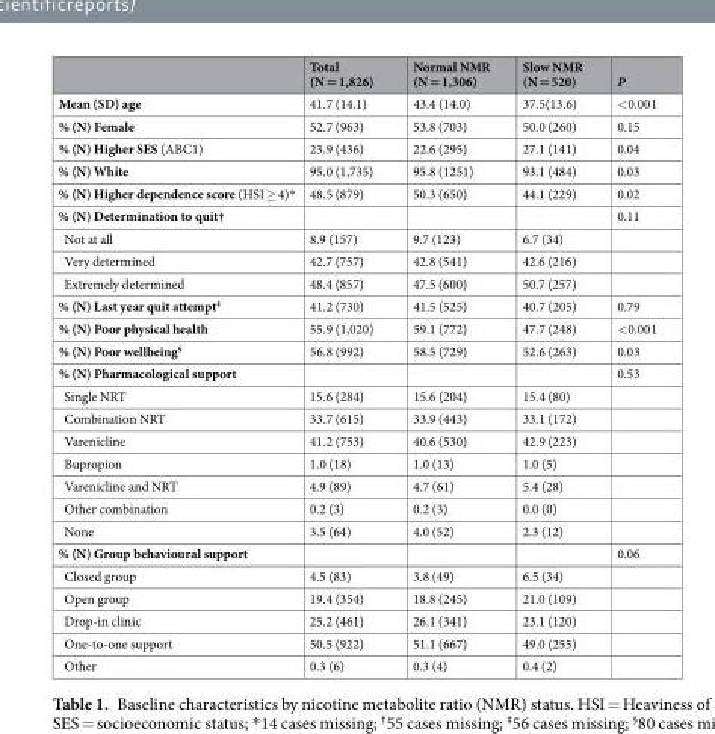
<table><thead><tr><td></td><td>Total (N = 1,826)</td><td>Normal NMR (N = 1,306)</td><td>Slow NMR (N = 520)</td><td>P</td></tr></thead><tbody><tr><td>Mean (SD) age</td><td>41.7 (14.1)</td><td>43.4 (14.0)</td><td>37.5(13.6)</td><td>&lt;0.001</td></tr><tr><td>% (N) Female</td><td>52.7 (963)</td><td>53.8 (703)</td><td>50.0 (260)</td><td>0.15</td></tr><tr><td>% (N) Higher SES (ABC1)</td><td>23.9 (436)</td><td>22.6 (295)</td><td>27.1 (141)</td><td>0.04</td></tr><tr><td>% (N) White</td><td>95.0 (1,735)</td><td>95.8 (1251)</td><td>93.1 (484)</td><td>0.03</td></tr><tr><td>% (N) Higher dependence score (HSI ≥ 4)*</td><td>48.5 (879)</td><td>50.3 (650)</td><td>44.1 (229)</td><td>0.02</td></tr><tr><td>% (N) Determination to quit†</td><td></td><td></td><td></td><td>0.11</td></tr><tr><td>Not at all</td><td>8.9 (157)</td><td>9.7 (123)</td><td>6.7 (34)</td><td></td></tr><tr><td>Very determined</td><td>42.7 (757)</td><td>42.8 (541)</td><td>42.6 (216)</td><td></td></tr><tr><td>Extremely determined</td><td>48.4 (857)</td><td>47.5 (600)</td><td>50.7 (257)</td><td></td></tr><tr><td>% (N) Last year quit attempt<sup>‡</sup></td><td>41.2 (730)</td><td>41.5 (525)</td><td>40.7 (205)</td><td>0.79</td></tr><tr><td>% (N) Poor physical health</td><td>55.9 (1,020)</td><td>59.1 (772)</td><td>47.7 (248)</td><td>&lt;0.001</td></tr><tr><td>% (N) Poor wellbeing<sup>§</sup></td><td>56.8 (992)</td><td>58.5 (729)</td><td>52.6 (263)</td><td>0.03</td></tr><tr><td>% (N) Pharmacological support</td><td></td><td></td><td></td><td>0.53</td></tr><tr><td>Single NRT</td><td>15.6 (284)</td><td>15.6 (204)</td><td>15.4 (80)</td><td></td></tr><tr><td>Combination NRT</td><td>33.7 (615)</td><td>33.9 (443)</td><td>33.1 (172)</td><td></td></tr><tr><td>Varenicline</td><td>41.2 (753)</td><td>40.6 (530)</td><td>42.9 (223)</td><td></td></tr><tr><td>Bupropion</td><td>1.0 (18)</td><td>1.0 (13)</td><td>1.0 (5)</td><td></td></tr><tr><td>Varenicline and NRT</td><td>4.9 (89)</td><td>4.7 (61)</td><td>5.4 (28)</td><td></td></tr><tr><td>Other combination</td><td>0.2 (3)</td><td>0.2 (3)</td><td>0.0 (0)</td><td></td></tr><tr><td>None</td><td>3.5 (64)</td><td>4.0 (52)</td><td>2.3 (12)</td><td></td></tr><tr><td>% (N) Group behavioural support</td><td></td><td></td><td></td><td>0.06</td></tr><tr><td>Closed group</td><td>4.5 (83)</td><td>3.8 (49)</td><td>6.5 (34)</td><td></td></tr><tr><td>Open group</td><td>19.4 (354)</td><td>18.8 (245)</td><td>21.0 (109)</td><td></td></tr><tr><td>Drop-in clinic</td><td>25.2 (461)</td><td>26.1 (341)</td><td>23.1 (120)</td><td></td></tr><tr><td>One-to-one support</td><td>50.5 (922)</td><td>51.1 (667)</td><td>49.0 (255)</td><td></td></tr><tr><td>Other</td><td>0.3 (6)</td><td>0.3 (4)</td><td>0.4 (2)</td><td></td></tr></tbody></table>